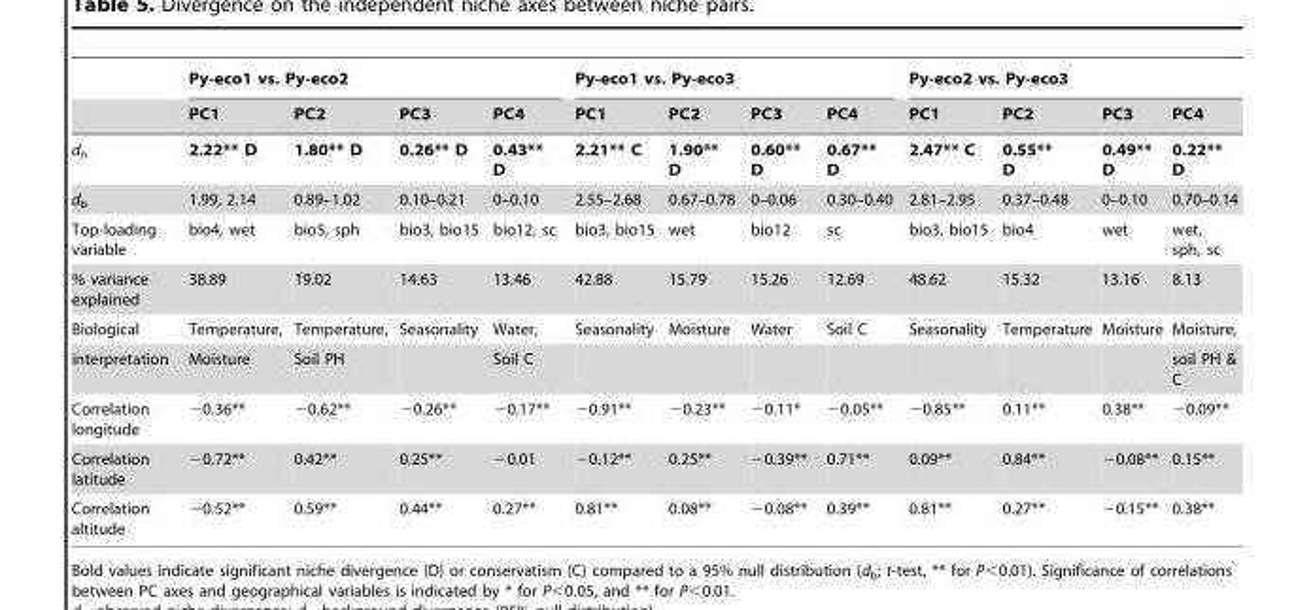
<table><thead><tr><td rowspan="2"></td><td colspan="4">Py-eco1 vs. Py-eco2</td><td colspan="4">Py-eco1 vs. Py-eco3</td><td colspan="4">Py-eco2 vs. Py-eco3</td></tr><tr><td>PC1</td><td>PC2</td><td>PC3</td><td>PC4</td><td>PC1</td><td>PC2</td><td>PC3</td><td>PC4</td><td>PC1</td><td>PC2</td><td>PC3</td><td>PC4</td></tr></thead><tbody><tr><td>d<sub>n</sub></td><td>2.22** D</td><td>1.80** D</td><td>0.26** D</td><td>0.43** D</td><td>2.21** C</td><td>1.90** D</td><td>0.60** D</td><td>0.67** D</td><td>2.47** C</td><td>0.55** D</td><td>0.49** D</td><td>0.22** D</td></tr><tr><td>d<sub>b</sub></td><td>1.99, 2.14</td><td>0.89–1.02</td><td>0.10–0.21</td><td>0–0.10</td><td>2.55–2.68</td><td>0.67–0.78</td><td>0–0.06</td><td>0.30–0.40</td><td>2.81–2.95</td><td>0.37–0.48</td><td>0–0.10</td><td>0.70–0.14</td></tr><tr><td>Top-loading variable</td><td>bio4, wet</td><td>bio5, sph</td><td>bio3, bio15</td><td>bio12, sc</td><td>bio3, bio15</td><td>wet</td><td>bio12</td><td>sc</td><td>bio3, bio15</td><td>bio4</td><td>wet</td><td>wet, sph, sc</td></tr><tr><td>% variance explained</td><td>38.89</td><td>19.02</td><td>14.63</td><td>13.46</td><td>42.88</td><td>15.79</td><td>15.26</td><td>12.69</td><td>48.62</td><td>15.32</td><td>13.16</td><td>8.13</td></tr><tr><td>Biological</td><td>Temperature,</td><td>Temperature,</td><td>Seasonality</td><td>Water,</td><td>Seasonality</td><td>Moisture</td><td>Water</td><td>Soil C</td><td>Seasonality</td><td>Temperature</td><td>Moisture</td><td>Moisture,</td></tr><tr><td>interpretation</td><td>Moisture</td><td>Soil PH</td><td></td><td>Soil C</td><td></td><td></td><td></td><td></td><td></td><td></td><td></td><td>soil PH &amp; C</td></tr><tr><td>Correlation longitude</td><td>−0.36**</td><td>−0.62**</td><td>−0.26**</td><td>−0.17**</td><td>−0.91**</td><td>−0.23**</td><td>−0.11*</td><td>−0.05**</td><td>−0.85**</td><td>0.11**</td><td>0.38**</td><td>−0.09**</td></tr><tr><td>Correlation latitude</td><td>−0.72**</td><td>0.42**</td><td>0.25**</td><td>−0.01</td><td>−0.12**</td><td>0.25**</td><td>−0.39**</td><td>0.71**</td><td>0.09**</td><td>0.84**</td><td>−0.08**</td><td>0.15**</td></tr><tr><td>Correlation altitude</td><td>−0.52**</td><td>0.59**</td><td>0.44**</td><td>0.27**</td><td>0.81**</td><td>0.08**</td><td>−0.08**</td><td>0.39**</td><td>0.81**</td><td>0.27**</td><td>−0.15**</td><td>0.38**</td></tr></tbody></table>